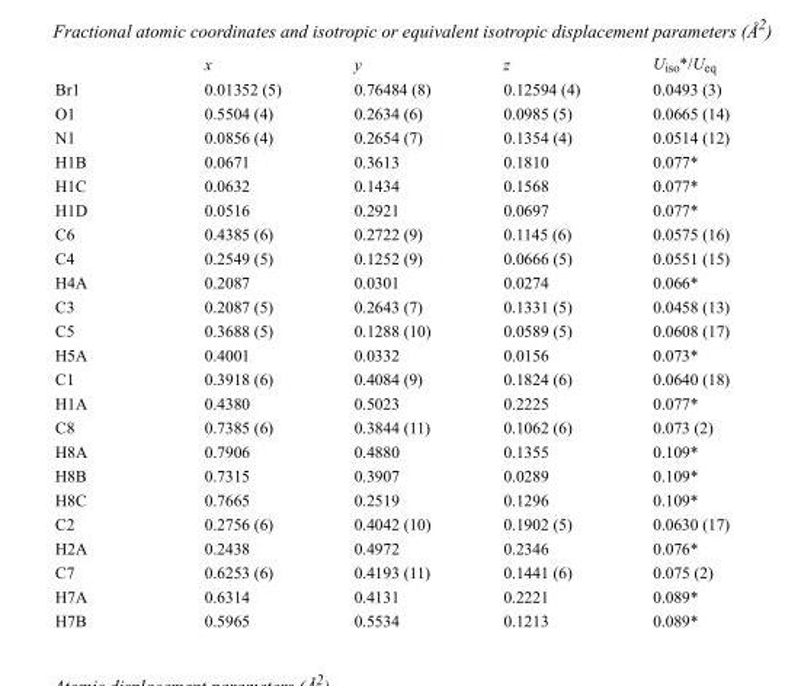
<table><thead><tr><td></td><td>x</td><td>y</td><td>z</td><td>U<sub>iso</sub>*/U<sub>eq</sub></td></tr></thead><tbody><tr><td>Br1</td><td>0.01352 (5)</td><td>0.76484 (8)</td><td>0.12594 (4)</td><td>0.0493 (3)</td></tr><tr><td>O1</td><td>0.5504 (4)</td><td>0.2634 (6)</td><td>0.0985 (5)</td><td>0.0665 (14)</td></tr><tr><td>N1</td><td>0.0856 (4)</td><td>0.2654 (7)</td><td>0.1354 (4)</td><td>0.0514 (12)</td></tr><tr><td>H1B</td><td>0.0671</td><td>0.3613</td><td>0.1810</td><td>0.077*</td></tr><tr><td>H1C</td><td>0.0632</td><td>0.1434</td><td>0.1568</td><td>0.077*</td></tr><tr><td>H1D</td><td>0.0516</td><td>0.2921</td><td>0.0697</td><td>0.077*</td></tr><tr><td>C6</td><td>0.4385 (6)</td><td>0.2722 (9)</td><td>0.1145 (6)</td><td>0.0575 (16)</td></tr><tr><td>C4</td><td>0.2549 (5)</td><td>0.1252 (9)</td><td>0.0666 (5)</td><td>0.0551 (15)</td></tr><tr><td>H4A</td><td>0.2087</td><td>0.0301</td><td>0.0274</td><td>0.066*</td></tr><tr><td>C3</td><td>0.2087 (5)</td><td>0.2643 (7)</td><td>0.1331 (5)</td><td>0.0458 (13)</td></tr><tr><td>C5</td><td>0.3688 (5)</td><td>0.1288 (10)</td><td>0.0589 (5)</td><td>0.0608 (17)</td></tr><tr><td>H5A</td><td>0.4001</td><td>0.0332</td><td>0.0156</td><td>0.073*</td></tr><tr><td>C1</td><td>0.3918 (6)</td><td>0.4084 (9)</td><td>0.1824 (6)</td><td>0.0640 (18)</td></tr><tr><td>H1A</td><td>0.4380</td><td>0.5023</td><td>0.2225</td><td>0.077*</td></tr><tr><td>C8</td><td>0.7385 (6)</td><td>0.3844 (11)</td><td>0.1062 (6)</td><td>0.073 (2)</td></tr><tr><td>H8A</td><td>0.7906</td><td>0.4880</td><td>0.1355</td><td>0.109*</td></tr><tr><td>H8B</td><td>0.7315</td><td>0.3907</td><td>0.0289</td><td>0.109*</td></tr><tr><td>H8C</td><td>0.7665</td><td>0.2519</td><td>0.1296</td><td>0.109*</td></tr><tr><td>C2</td><td>0.2756 (6)</td><td>0.4042 (10)</td><td>0.1902 (5)</td><td>0.0630 (17)</td></tr><tr><td>H2A</td><td>0.2438</td><td>0.4972</td><td>0.2346</td><td>0.076*</td></tr><tr><td>C7</td><td>0.6253 (6)</td><td>0.4193 (11)</td><td>0.1441 (6)</td><td>0.075 (2)</td></tr><tr><td>H7A</td><td>0.6314</td><td>0.4131</td><td>0.2221</td><td>0.089*</td></tr><tr><td>H7B</td><td>0.5965</td><td>0.5534</td><td>0.1213</td><td>0.089*</td></tr></tbody></table>